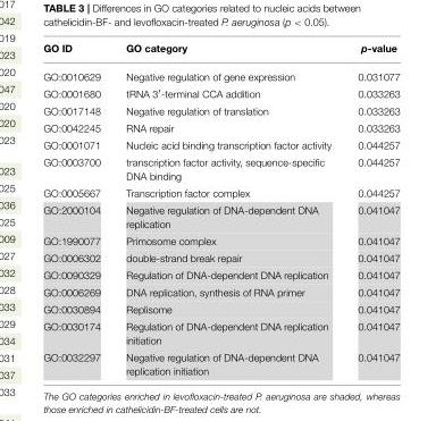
<table><thead><tr><td>GO ID</td><td>GO category</td><td>p-value</td></tr></thead><tbody><tr><td>GO:0010629</td><td>Negative regulation of gene expression</td><td>0.031077</td></tr><tr><td>GO:0001680</td><td>tRNA 3′-terminal CCA addition</td><td>0.033263</td></tr><tr><td>GO:0017148</td><td>Negative regulation of translation</td><td>0.033263</td></tr><tr><td>GO:0042245</td><td>RNA repair</td><td>0.033263</td></tr><tr><td>GO:0001071</td><td>Nucleic acid binding transcription factor activity</td><td>0.044257</td></tr><tr><td>GO:0003700</td><td>transcription factor activity, sequence-specific DNA binding</td><td>0.044257</td></tr><tr><td>GO:0005667</td><td>Transcription factor complex</td><td>0.044257</td></tr><tr><td>GO:2000104</td><td>Negative regulation of DNA-dependent DNA replication</td><td>0.041047</td></tr><tr><td>GO:1990077</td><td>Primosome complex</td><td>0.041047</td></tr><tr><td>GO:0006302</td><td>double-strand break repair</td><td>0.041047</td></tr><tr><td>GO:0090329</td><td>Regulation of DNA-dependent DNA replication</td><td>0.041047</td></tr><tr><td>GO:0006269</td><td>DNA replication, synthesis of RNA primer</td><td>0.041047</td></tr><tr><td>GO:0030894</td><td>Replisome</td><td>0.041047</td></tr><tr><td>GO:0030174</td><td>Regulation of DNA-dependent DNA replication initiation</td><td>0.041047</td></tr><tr><td>GO:0032297</td><td>Negative regulation of DNA-dependent DNA replication initiation</td><td>0.041047</td></tr></tbody></table>